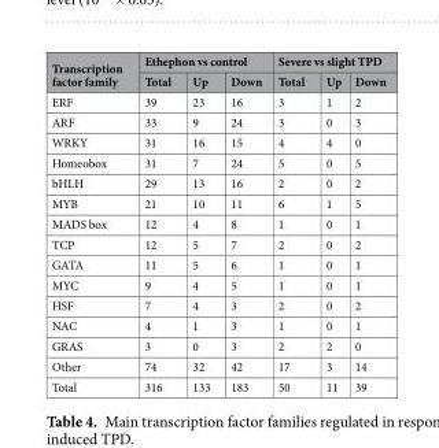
<table><thead><tr><td rowspan="2">Transcription factor family</td><td colspan="3">Ethephon vs control</td><td colspan="3">Severe vs slight TPD</td></tr><tr><td>Total</td><td>Up</td><td>Down</td><td>Total</td><td>Up</td><td>Down</td></tr></thead><tbody><tr><td>ERF</td><td>39</td><td>23</td><td>16</td><td>3</td><td>1</td><td>2</td></tr><tr><td>ARF</td><td>33</td><td>9</td><td>24</td><td>3</td><td>0</td><td>3</td></tr><tr><td>WRKY</td><td>31</td><td>16</td><td>15</td><td>4</td><td>4</td><td>0</td></tr><tr><td>Homeobox</td><td>31</td><td>7</td><td>24</td><td>5</td><td>0</td><td>5</td></tr><tr><td>bHLH</td><td>29</td><td>13</td><td>16</td><td>2</td><td>0</td><td>2</td></tr><tr><td>MYB</td><td>21</td><td>10</td><td>11</td><td>6</td><td>1</td><td>5</td></tr><tr><td>MADS box</td><td>12</td><td>4</td><td>8</td><td>1</td><td>0</td><td>1</td></tr><tr><td>TCP</td><td>12</td><td>5</td><td>7</td><td>2</td><td>0</td><td>2</td></tr><tr><td>GATA</td><td>11</td><td>5</td><td>6</td><td>1</td><td>0</td><td>1</td></tr><tr><td>MYC</td><td>9</td><td>4</td><td>5</td><td>1</td><td>0</td><td>1</td></tr><tr><td>HSF</td><td>7</td><td>4</td><td>3</td><td>2</td><td>0</td><td>2</td></tr><tr><td>NAC</td><td>4</td><td>1</td><td>3</td><td>1</td><td>0</td><td>1</td></tr><tr><td>GRAS</td><td>3</td><td>0</td><td>3</td><td>2</td><td>2</td><td>0</td></tr><tr><td>Other</td><td>74</td><td>32</td><td>42</td><td>17</td><td>3</td><td>14</td></tr><tr><td>Total</td><td>316</td><td>133</td><td>183</td><td>50</td><td>11</td><td>39</td></tr></tbody></table>